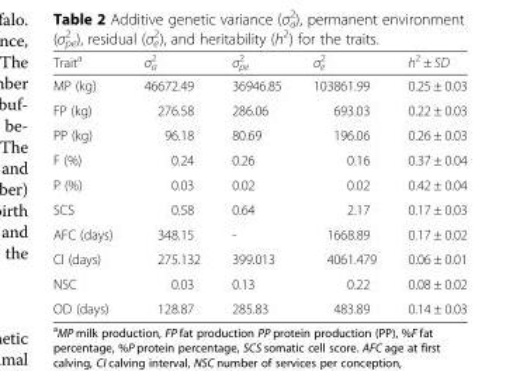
<table><thead><tr><td>Trait<sup>a</sup></td><td>σ<sub>a</sub> <sup>2</sup></td><td>σ<sub>pe</sub> <sup>2</sup></td><td>σ<sub>e</sub> <sup>2</sup></td><td>h<sup>2</sup> ± SD</td></tr></thead><tbody><tr><td>MP (kg)</td><td>46672.49</td><td>36946.85</td><td>103861.99</td><td>0.25 ± 0.03</td></tr><tr><td>FP (kg)</td><td>276.58</td><td>286.06</td><td>693.03</td><td>0.22 ± 0.03</td></tr><tr><td>PP (kg)</td><td>96.18</td><td>80.69</td><td>196.06</td><td>0.26 ± 0.03</td></tr><tr><td>F (%)</td><td>0.24</td><td>0.26</td><td>0.16</td><td>0.37 ± 0.04</td></tr><tr><td>P (%)</td><td>0.03</td><td>0.02</td><td>0.02</td><td>0.42 ± 0.04</td></tr><tr><td>SCS</td><td>0.58</td><td>0.64</td><td>2.17</td><td>0.17 ± 0.03</td></tr><tr><td>AFC (days)</td><td>348.15</td><td>-</td><td>1668.89</td><td>0.17 ± 0.02</td></tr><tr><td>CI (days)</td><td>275.132</td><td>399.013</td><td>4061.479</td><td>0.06 ± 0.01</td></tr><tr><td>NSC</td><td>0.03</td><td>0.13</td><td>0.22</td><td>0.08 ± 0.02</td></tr><tr><td>OD (days)</td><td>128.87</td><td>285.83</td><td>483.89</td><td>0.14 ± 0.03</td></tr></tbody></table>